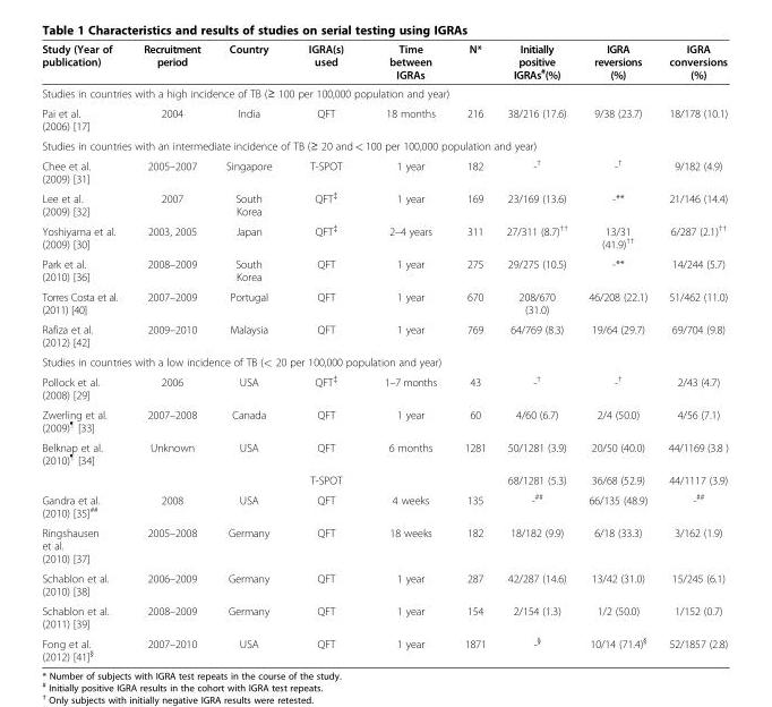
<table><thead><tr><td>Study (Year of publication)</td><td>Recruitment period</td><td>Country</td><td>IGRA(s) used</td><td>Time between IGRAs</td><td>N*</td><td>Initially positive IGRAs<sup>#</sup>(%)</td><td>IGRA reversions (%)</td><td>IGRA conversions (%)</td></tr></thead><tbody><tr><td colspan="9">Studies in countries with a high incidence of TB (≥ 100 per 100,000 population and year)</td></tr><tr><td>Pai et al. (2006) [17]</td><td>2004</td><td>India</td><td>QFT</td><td>18 months</td><td>216</td><td>38/216 (17.6)</td><td>9/38 (23.7)</td><td>18/178 (10.1)</td></tr><tr><td colspan="9">Studies in countries with an intermediate incidence of TB (≥ 20 and &lt; 100 per 100,000 population and year)</td></tr><tr><td>Chee et al. (2009) [31]</td><td>2005–2007</td><td>Singapore</td><td>T-SPOT</td><td>1 year</td><td>182</td><td>-<sup>†</sup></td><td>-<sup>†</sup></td><td>9/182 (4.9)</td></tr><tr><td>Lee et al. (2009) [32]</td><td>2007</td><td>South Korea</td><td>QFT<sup>‡</sup></td><td>1 year</td><td>169</td><td>23/169 (13.6)</td><td>-**</td><td>21/146 (14.4)</td></tr><tr><td>Yoshiyama et al. (2009) [30]</td><td>2003, 2005</td><td>Japan</td><td>QFT<sup>‡</sup></td><td>2–4 years</td><td>311</td><td>27/311 (8.7)<sup>††</sup></td><td>13/31 (41.9)<sup>††</sup></td><td>6/287 (2.1)<sup>††</sup></td></tr><tr><td>Park et al. (2010) [36]</td><td>2008–2009</td><td>South Korea</td><td>QFT</td><td>1 year</td><td>275</td><td>29/275 (10.5)</td><td>-**</td><td>14/244 (5.7)</td></tr><tr><td>Torres Costa et al. (2011) [40]</td><td>2007–2009</td><td>Portugal</td><td>QFT</td><td>1 year</td><td>670</td><td>208/670 (31.0)</td><td>46/208 (22.1)</td><td>51/462 (11.0)</td></tr><tr><td>Rafiza et al. (2012) [42]</td><td>2009–2010</td><td>Malaysia</td><td>QFT</td><td>1 year</td><td>769</td><td>64/769 (8.3)</td><td>19/64 (29.7)</td><td>69/704 (9.8)</td></tr><tr><td colspan="9">Studies in countries with a low incidence of TB (&lt; 20 per 100,000 population and year)</td></tr><tr><td>Pollock et al. (2008) [29]</td><td>2006</td><td>USA</td><td>QFT<sup>‡</sup></td><td>1–7 months</td><td>43</td><td>-<sup>†</sup></td><td>-<sup>†</sup></td><td>2/43 (4.7)</td></tr><tr><td>Zwerling et al. (2009)<sup>¶</sup> [33]</td><td>2007–2008</td><td>Canada</td><td>QFT</td><td>1 year</td><td>60</td><td>4/60 (6.7)</td><td>2/4 (50.0)</td><td>4/56 (7.1)</td></tr><tr><td rowspan="2">Belknap et al. (2010)<sup>¶</sup> [34]</td><td>Unknown</td><td>USA</td><td>QFT</td><td>6 months</td><td>1281</td><td>50/1281 (3.9)</td><td>20/50 (40.0)</td><td>44/1169 (3.8 )</td></tr><tr><td></td><td></td><td>T-SPOT</td><td></td><td></td><td>68/1281 (5.3)</td><td>36/68 (52.9)</td><td>44/1117 (3.9)</td></tr><tr><td>Gandra et al. (2010) [35]<sup>##</sup></td><td>2008</td><td>USA</td><td>QFT</td><td>4 weeks</td><td>135</td><td>-<sup>##</sup></td><td>66/135 (48.9)</td><td>-<sup>##</sup></td></tr><tr><td>Ringshausen et al. (2010) [37]</td><td>2005–2008</td><td>Germany</td><td>QFT</td><td>18 weeks</td><td>182</td><td>18/182 (9.9)</td><td>6/18 (33.3)</td><td>3/162 (1.9)</td></tr><tr><td>Schablon et al. (2010) [38]</td><td>2006–2009</td><td>Germany</td><td>QFT</td><td>1 year</td><td>287</td><td>42/287 (14.6)</td><td>13/42 (31.0)</td><td>15/245 (6.1)</td></tr><tr><td>Schablon et al. (2011) [39]</td><td>2008–2009</td><td>Germany</td><td>QFT</td><td>1 year</td><td>154</td><td>2/154 (1.3)</td><td>1/2 (50.0)</td><td>1/152 (0.7)</td></tr><tr><td>Fong et al. (2012) [41]<sup>§</sup></td><td>2007–2010</td><td>USA</td><td>QFT</td><td>1 year</td><td>1871</td><td>-<sup>§</sup></td><td>10/14 (71.4)<sup>§</sup></td><td>52/1857 (2.8)</td></tr></tbody></table>